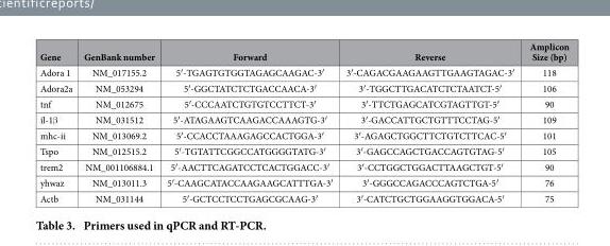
<table><thead><tr><td>Gene</td><td>GenBank number</td><td>Forward</td><td>Reverse</td><td>Amplicon Size (bp)</td></tr></thead><tbody><tr><td>Adora 1</td><td>NM_017155.2</td><td>5′ -TGAGTGTGGTAGAGCAAGAC-3′</td><td>3′ -CAGACGAAGAAGTTGAAGTAGAC-3′</td><td>118</td></tr><tr><td>Adora2a</td><td>NM_053294</td><td>5′ -GGCTATCTCTGACCAACA-3′</td><td>3′ -TGGCTTGACATCTCTAATCT-5′</td><td>106</td></tr><tr><td>tnf</td><td>NM_012675</td><td>5′ -CCCAATCTGTGTCCTTCT-3′</td><td>3′ -TTCTGAGCATCGTAGTTGT-5′</td><td>90</td></tr><tr><td>il-1β</td><td>NM_031512</td><td>5′ -ATAGAAGTCAAGACCAAAGTG-3′</td><td>3′ -GACCATTGCTGTTTCCTAG-5′</td><td>109</td></tr><tr><td>mhc-ii</td><td>NM_013069.2</td><td>5′ -CCACCTAAAGAGCCACTGGA-3′</td><td>3′ -AGAGCTGGCTTCTGTCTTCAC-5′</td><td>101</td></tr><tr><td>Tspo</td><td>NM_012515.2</td><td>5′ -TGTATTCGGCCATGGGGTATG-3′</td><td>3′ -GAGCCAGCTGACCAGTGTAG-5′</td><td>105</td></tr><tr><td>trem2</td><td>NM_001106884.1</td><td>5′ -AACTTCAGATCCTCACTGGACC-3′</td><td>3′ -CCTGGCTGGACTTAAGCTGT-5′</td><td>90</td></tr><tr><td>yhwaz</td><td>NM_013011.3</td><td>5′ -CAAGCATACCAAGAAGCATTTGA-3′</td><td>3′ -GGGCCAGACCCAGTCTGA-5′</td><td>76</td></tr><tr><td>Actb</td><td>NM_031144</td><td>5′ -GCTCCTCCTGAGCGCAAG-3′</td><td>3′ -CATCTGCTGGAAGGTGGACA-5′</td><td>75</td></tr></tbody></table>